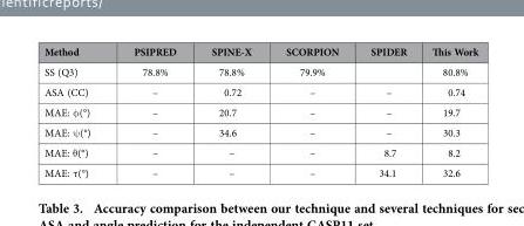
<table><thead><tr><td>Method</td><td>PSIPRED</td><td>SPINE-X</td><td>SCORPION</td><td>SPIDER</td><td>This Work</td></tr></thead><tbody><tr><td>SS (Q3)</td><td>78.8%</td><td>78.8%</td><td>79.9%</td><td></td><td>80.8%</td></tr><tr><td>ASA (CC)</td><td>–</td><td>0.72</td><td>–</td><td>–</td><td>0.74</td></tr><tr><td>MAE: φ (°)</td><td>–</td><td>20.7</td><td>–</td><td>–</td><td>19.7</td></tr><tr><td>MAE: ψ (°)</td><td>–</td><td>34.6</td><td>–</td><td>–</td><td>30.3</td></tr><tr><td>MAE: θ (°)</td><td>–</td><td>–</td><td>–</td><td>8.7</td><td>8.2</td></tr><tr><td>MAE: τ (°)</td><td>–</td><td>–</td><td>–</td><td>34.1</td><td>32.6</td></tr></tbody></table>